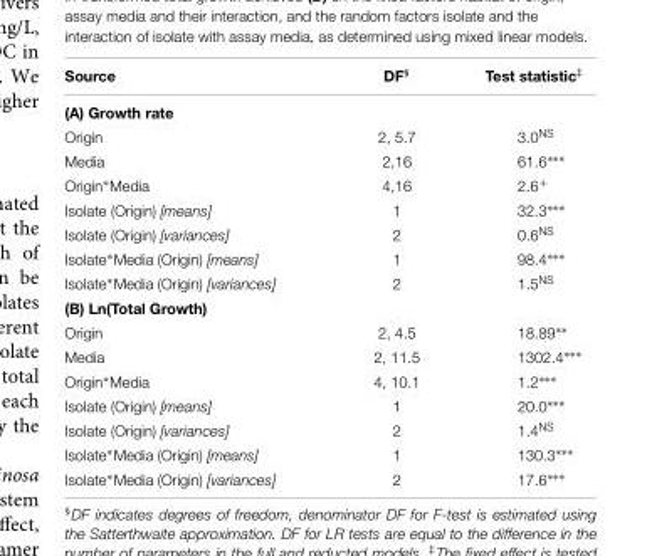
<table><thead><tr><td>Source</td><td>DF<sup>§</sup></td><td>Test statistic<sup>‡</sup></td></tr></thead><tbody><tr><td colspan="3">(A) Growth rate</td></tr><tr><td>Origin</td><td>2, 5.7</td><td>3.0<sup>NS</sup></td></tr><tr><td>Media</td><td>2,16</td><td>61.6∗∗∗</td></tr><tr><td>Origin∗Media</td><td>4,16</td><td>2.6<sup>+</sup></td></tr><tr><td>Isolate (Origin) [means]</td><td>1</td><td>32.3∗∗∗</td></tr><tr><td>Isolate (Origin) [variances]</td><td>2</td><td>0.6<sup>NS</sup></td></tr><tr><td>Isolate∗Media (Origin) [means]</td><td>1</td><td>98.4∗∗∗</td></tr><tr><td>Isolate∗Media (Origin) [variances]</td><td>2</td><td>1.5<sup>NS</sup></td></tr><tr><td colspan="3">(B) Ln(Total Growth)</td></tr><tr><td>Origin</td><td>2, 4.5</td><td>18.89∗∗</td></tr><tr><td>Media</td><td>2, 11.5</td><td>1302.4∗∗∗</td></tr><tr><td>Origin∗Media</td><td>4, 10.1</td><td>1.2∗∗∗</td></tr><tr><td>Isolate (Origin) [means]</td><td>1</td><td>20.0∗∗∗</td></tr><tr><td>Isolate (Origin) [variances]</td><td>2</td><td>1.4<sup>NS</sup></td></tr><tr><td>Isolate∗Media (Origin) [means]</td><td>1</td><td>130.3∗∗∗</td></tr><tr><td>Isolate∗Media (Origin) [variances]</td><td>2</td><td>17.6∗∗∗</td></tr></tbody></table>